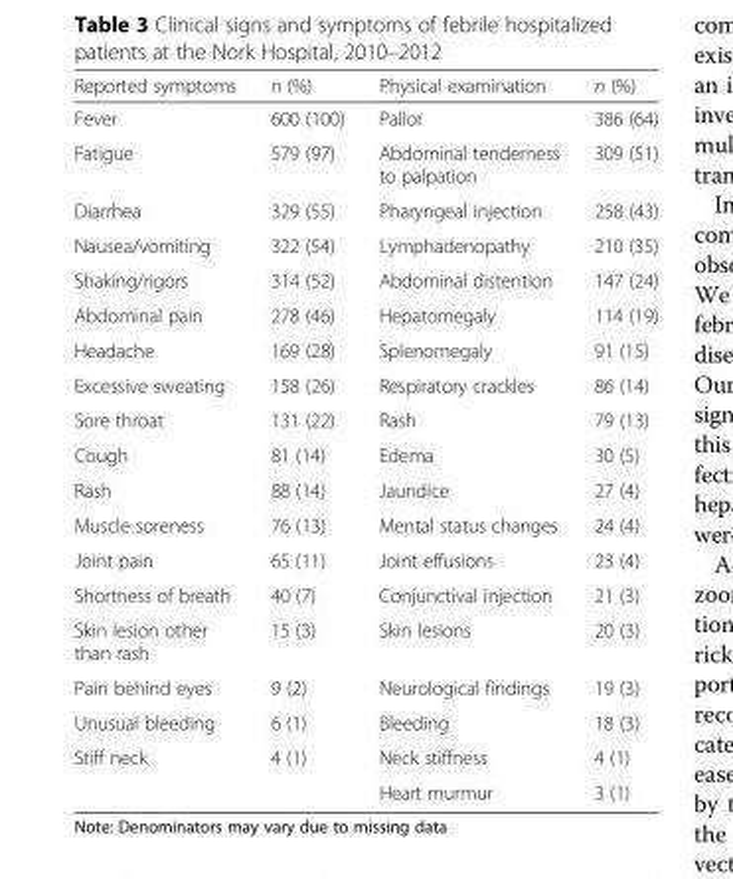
<table><thead><tr><td>Reported symptoms</td><td>n (%)</td><td>Physical examination</td><td>n (%)</td></tr></thead><tbody><tr><td>Fever</td><td>600 (100)</td><td>Pallor</td><td>386 (64)</td></tr><tr><td>Fatigue</td><td>579 (97)</td><td>Abdominal tenderness to palpation</td><td>309 (51)</td></tr><tr><td>Diarrhea</td><td>329 (55)</td><td>Pharyngeal injection</td><td>258 (43)</td></tr><tr><td>Nausea/vomiting</td><td>322 (54)</td><td>Lymphadenopathy</td><td>210 (35)</td></tr><tr><td>Shaking/rigors</td><td>314 (52)</td><td>Abdominal distention</td><td>147 (24)</td></tr><tr><td>Abdominal pain</td><td>278 (46)</td><td>Hepatomegaly</td><td>114 (19)</td></tr><tr><td>Headache</td><td>169 (28)</td><td>Splenomegaly</td><td>91 (15)</td></tr><tr><td>Excessive sweating</td><td>158 (26)</td><td>Respiratory crackles</td><td>86 (14)</td></tr><tr><td>Sore throat</td><td>131 (22)</td><td>Rash</td><td>79 (13)</td></tr><tr><td>Cough</td><td>81 (14)</td><td>Edema</td><td>30 (5)</td></tr><tr><td>Rash</td><td>88 (14)</td><td>Jaundice</td><td>27 (4)</td></tr><tr><td>Muscle soreness</td><td>76 (13)</td><td>Mental status changes</td><td>24 (4)</td></tr><tr><td>Joint pain</td><td>65 (11)</td><td>Joint effusions</td><td>23 (4)</td></tr><tr><td>Shortness of breath</td><td>40 (7)</td><td>Conjunctival injection</td><td>21 (3)</td></tr><tr><td>Skin lesion other than rash</td><td>15 (3)</td><td>Skin lesions</td><td>20 (3)</td></tr><tr><td>Pain behind eyes</td><td>9 (2)</td><td>Neurological findings</td><td>19 (3)</td></tr><tr><td>Unusual bleeding</td><td>6 (1)</td><td>Bleeding</td><td>18 (3)</td></tr><tr><td rowspan="2">Stiff neck</td><td>4 (1)</td><td>Neck stiffness</td><td>4 (1)</td></tr><tr><td></td><td>Heart murmur</td><td>3 (1)</td></tr></tbody></table>